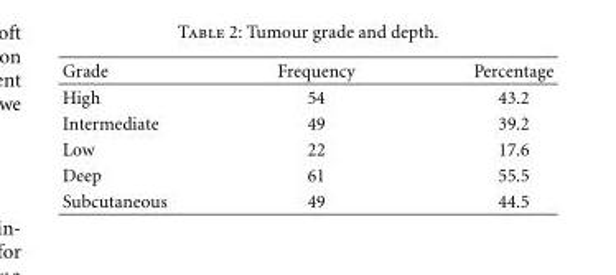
<table><thead><tr><td>Grade</td><td>Frequency</td><td>Percentage</td></tr></thead><tbody><tr><td>High</td><td>54</td><td>43.2</td></tr><tr><td>Intermediate</td><td>49</td><td>39.2</td></tr><tr><td>Low</td><td>22</td><td>17.6</td></tr><tr><td>Deep</td><td>61</td><td>55.5</td></tr><tr><td>Subcutaneous</td><td>49</td><td>44.5</td></tr></tbody></table>